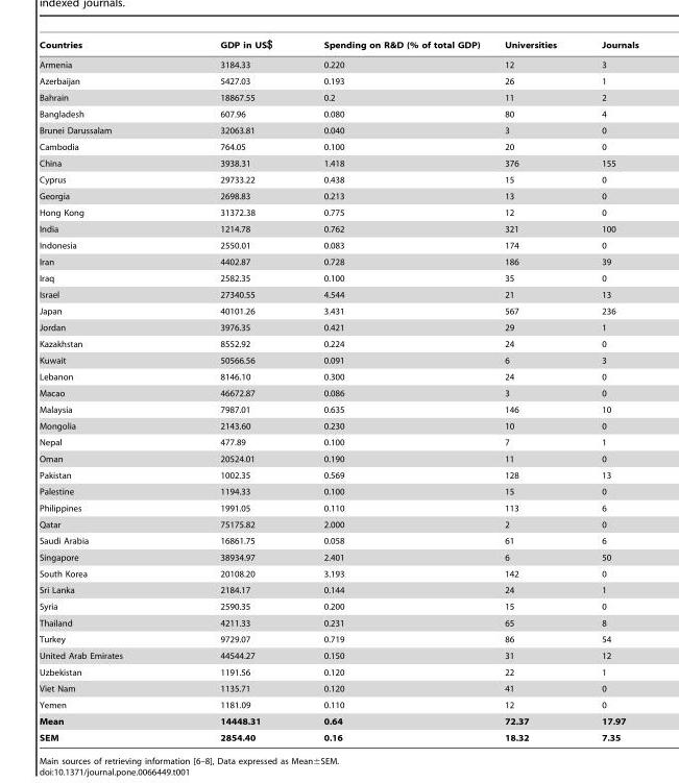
<table><thead><tr><td>Countries</td><td>GDP in US$</td><td>Spending on R&amp;D (% of total GDP)</td><td>Universities</td><td>Journals</td></tr></thead><tbody><tr><td>Armenia</td><td>3184.33</td><td>0.220</td><td>12</td><td>3</td></tr><tr><td>Azerbaijan</td><td>5427.03</td><td>0.193</td><td>26</td><td>1</td></tr><tr><td>Bahrain</td><td>18867.55</td><td>0.2</td><td>11</td><td>2</td></tr><tr><td>Bangladesh</td><td>607.96</td><td>0.080</td><td>80</td><td>4</td></tr><tr><td>Brunei Darussalam</td><td>32063.81</td><td>0.040</td><td>3</td><td>0</td></tr><tr><td>Cambodia</td><td>764.05</td><td>0.100</td><td>20</td><td>0</td></tr><tr><td>China</td><td>3938.31</td><td>1.418</td><td>376</td><td>155</td></tr><tr><td>Cyprus</td><td>29733.22</td><td>0.438</td><td>15</td><td>0</td></tr><tr><td>Georgia</td><td>2698.83</td><td>0.213</td><td>13</td><td>0</td></tr><tr><td>Hong Kong</td><td>31372.38</td><td>0.775</td><td>12</td><td>0</td></tr><tr><td>India</td><td>1214.78</td><td>0.762</td><td>321</td><td>100</td></tr><tr><td>Indonesia</td><td>2550.01</td><td>0.083</td><td>174</td><td>0</td></tr><tr><td>Iran</td><td>4402.87</td><td>0.728</td><td>186</td><td>39</td></tr><tr><td>Iraq</td><td>2582.35</td><td>0.100</td><td>35</td><td>0</td></tr><tr><td>Israel</td><td>27340.55</td><td>4.544</td><td>21</td><td>13</td></tr><tr><td>Japan</td><td>40101.26</td><td>3.431</td><td>567</td><td>236</td></tr><tr><td>Jordan</td><td>3976.35</td><td>0.421</td><td>29</td><td>1</td></tr><tr><td>Kazakhstan</td><td>8552.92</td><td>0.224</td><td>24</td><td>0</td></tr><tr><td>Kuwait</td><td>50566.56</td><td>0.091</td><td>6</td><td>3</td></tr><tr><td>Lebanon</td><td>8146.10</td><td>0.300</td><td>24</td><td>0</td></tr><tr><td>Macao</td><td>46672.87</td><td>0.086</td><td>3</td><td>0</td></tr><tr><td>Malaysia</td><td>7987.01</td><td>0.635</td><td>146</td><td>10</td></tr><tr><td>Mongolia</td><td>2143.60</td><td>0.230</td><td>10</td><td>0</td></tr><tr><td>Nepal</td><td>477.89</td><td>0.100</td><td>7</td><td>1</td></tr><tr><td>Oman</td><td>20524.01</td><td>0.190</td><td>11</td><td>0</td></tr><tr><td>Pakistan</td><td>1002.35</td><td>0.569</td><td>128</td><td>13</td></tr><tr><td>Palestine</td><td>1194.33</td><td>0.100</td><td>15</td><td>0</td></tr><tr><td>Philippines</td><td>1991.05</td><td>0.110</td><td>113</td><td>6</td></tr><tr><td>Qatar</td><td>75175.82</td><td>2.000</td><td>2</td><td>0</td></tr><tr><td>Saudi Arabia</td><td>16861.75</td><td>0.058</td><td>61</td><td>6</td></tr><tr><td>Singapore</td><td>38934.97</td><td>2.401</td><td>6</td><td>50</td></tr><tr><td>South Korea</td><td>20108.20</td><td>3.193</td><td>142</td><td>0</td></tr><tr><td>Sri Lanka</td><td>2184.17</td><td>0.144</td><td>24</td><td>1</td></tr><tr><td>Syria</td><td>2590.35</td><td>0.200</td><td>15</td><td>0</td></tr><tr><td>Thailand</td><td>4211.33</td><td>0.231</td><td>65</td><td>8</td></tr><tr><td>Turkey</td><td>9729.07</td><td>0.719</td><td>86</td><td>54</td></tr><tr><td>United Arab Emirates</td><td>44544.27</td><td>0.150</td><td>31</td><td>12</td></tr><tr><td>Uzbekistan</td><td>1191.56</td><td>0.120</td><td>22</td><td>1</td></tr><tr><td>Viet Nam</td><td>1135.71</td><td>0.120</td><td>41</td><td>0</td></tr><tr><td>Yemen</td><td>1181.09</td><td>0.110</td><td>12</td><td>0</td></tr><tr><td>Mean</td><td>14448.31</td><td>0.64</td><td>72.37</td><td>17.97</td></tr><tr><td>SEM</td><td>2854.40</td><td>0.16</td><td>18.32</td><td>7.35</td></tr></tbody></table>